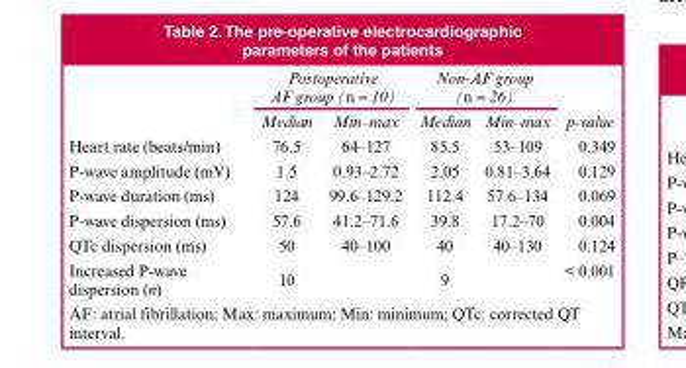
<table><thead><tr><td rowspan="2"></td><td colspan="2">Postoperative AF group (n = 10)</td><td colspan="2">Non-AF group (n = 26)</td><td rowspan="2">p-value</td></tr><tr><td>Median</td><td>Min–max</td><td>Median</td><td>Min–max</td></tr></thead><tbody><tr><td>Heart rate (beats/min)</td><td>76.5</td><td>64–127</td><td>85.5</td><td>53–109</td><td>0.349</td></tr><tr><td>P-wave amplitude (mV)</td><td>1.5</td><td>0.93–2.72</td><td>2.05</td><td>0.81–3.64</td><td>0.129</td></tr><tr><td>P-wave duration (ms)</td><td>124</td><td>99.6–129.2</td><td>112.4</td><td>57.6–134</td><td>0.069</td></tr><tr><td>P-wave dispersion (ms)</td><td>57.6</td><td>41.2–71.6</td><td>39.8</td><td>17.2–70</td><td>0.004</td></tr><tr><td>QTc dispersion (ms)</td><td>50</td><td>40–100</td><td>40</td><td>40–130</td><td>0.124</td></tr><tr><td>Increased P-wave dispersion (n)</td><td>10</td><td></td><td>9</td><td></td><td>&lt; 0.001</td></tr></tbody></table>